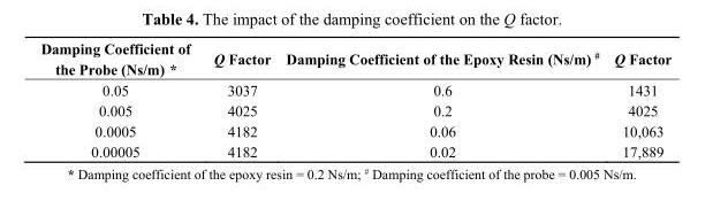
<table><thead><tr><td>Damping Coefficient of the Probe (Ns/m) *</td><td>Q Factor</td><td>Damping Coefficient of the Epoxy Resin (Ns/m) <sup>#</sup></td><td>Q Factor</td></tr></thead><tbody><tr><td>0.05</td><td>3037</td><td>0.6</td><td>1431</td></tr><tr><td>0.005</td><td>4025</td><td>0.2</td><td>4025</td></tr><tr><td>0.0005</td><td>4182</td><td>0.06</td><td>10,063</td></tr><tr><td>0.00005</td><td>4182</td><td>0.02</td><td>17,889</td></tr></tbody></table>